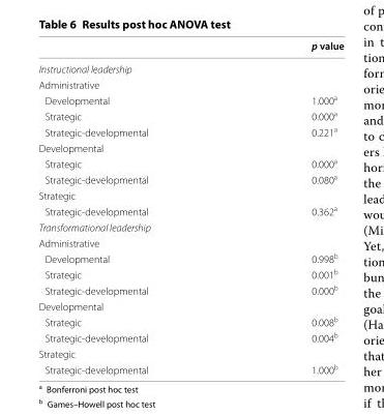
<table><thead><tr><td></td><td>p value</td></tr></thead><tbody><tr><td colspan="2">Instructional leadership</td></tr><tr><td colspan="2">Administrative</td></tr><tr><td>Developmental</td><td>1.000<sup>a</sup></td></tr><tr><td>Strategic</td><td>0.000<sup>a</sup></td></tr><tr><td>Strategic-developmental</td><td>0.221<sup>a</sup></td></tr><tr><td colspan="2">Developmental</td></tr><tr><td>Strategic</td><td>0.000<sup>a</sup></td></tr><tr><td>Strategic-developmental</td><td>0.080<sup>a</sup></td></tr><tr><td colspan="2">Strategic</td></tr><tr><td>Strategic-developmental</td><td>0.362<sup>a</sup></td></tr><tr><td colspan="2">Transformational leadership</td></tr><tr><td colspan="2">Administrative</td></tr><tr><td>Developmental</td><td>0.998<sup>b</sup></td></tr><tr><td>Strategic</td><td>0.001<sup>b</sup></td></tr><tr><td>Strategic-developmental</td><td>0.000<sup>b</sup></td></tr><tr><td colspan="2">Developmental</td></tr><tr><td>Strategic</td><td>0.008<sup>b</sup></td></tr><tr><td>Strategic-developmental</td><td>0.004<sup>b</sup></td></tr><tr><td colspan="2">Strategic</td></tr><tr><td>Strategic-developmental</td><td>1.000<sup>b</sup></td></tr></tbody></table>